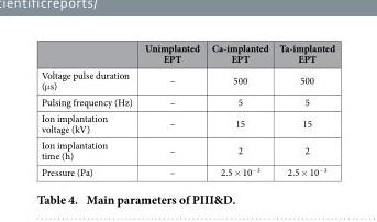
<table><thead><tr><td></td><td>Unimplanted EPT</td><td>Ca-implanted EPT</td><td>Ta-implanted EPT</td></tr></thead><tbody><tr><td>Voltage pulse duration (μ s)</td><td>–</td><td>500</td><td>500</td></tr><tr><td>Pulsing frequency (Hz)</td><td>–</td><td>5</td><td>5</td></tr><tr><td>Ion implantation voltage (kV)</td><td>–</td><td>15</td><td>15</td></tr><tr><td>Ion implantation time (h)</td><td>–</td><td>2</td><td>2</td></tr><tr><td>Pressure (Pa)</td><td>–</td><td>2.5 × 10<sup>−3</sup></td><td>2.5 × 10<sup>−3</sup></td></tr></tbody></table>